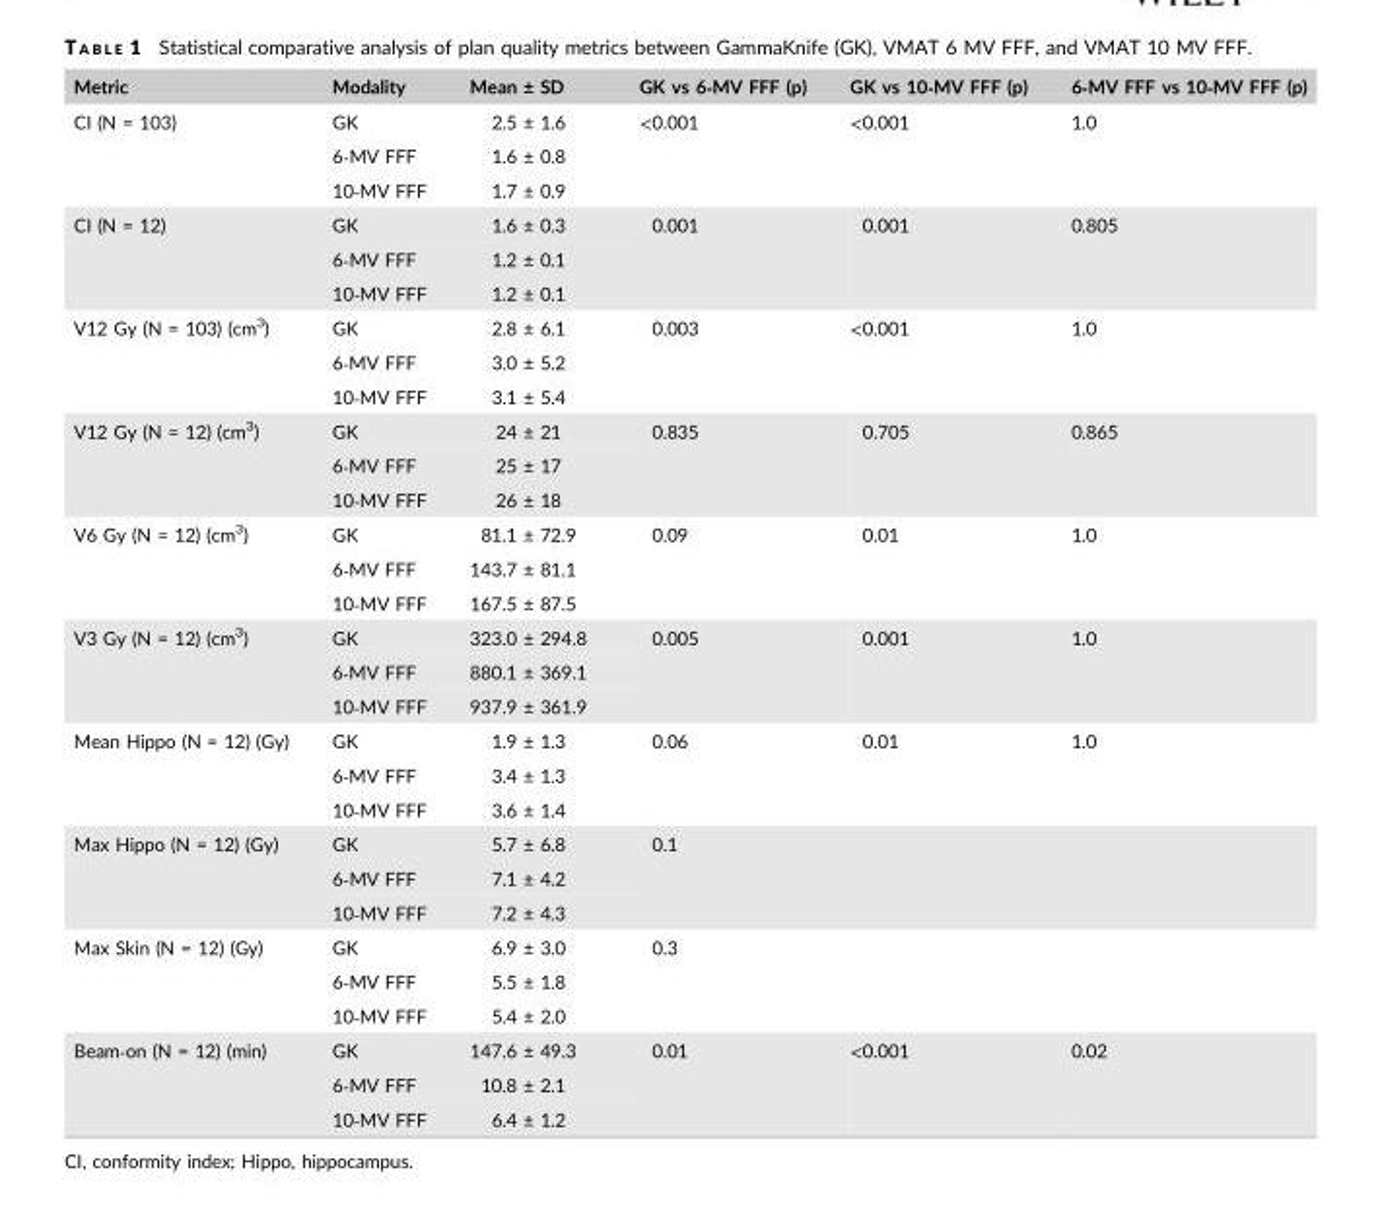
<table><thead><tr><td>Metric</td><td>Modality</td><td>Mean ± SD</td><td>GK vs 6‐MV FFF (p)</td><td>GK vs 10‐MV FFF (p)</td><td>6‐MV FFF vs 10‐MV FFF (p)</td></tr></thead><tbody><tr><td rowspan="3">CI (N = 103)</td><td>GK</td><td>2.5 ± 1.6</td><td rowspan="3">&lt;0.001</td><td rowspan="3">&lt;0.001</td><td rowspan="3">1.0</td></tr><tr><td>6‐MV FFF</td><td>1.6 ± 0.8</td></tr><tr><td>10‐MV FFF</td><td>1.7 ± 0.9</td></tr><tr><td rowspan="3">CI (N = 12)</td><td>GK</td><td>1.6 ± 0.3</td><td rowspan="3">0.001</td><td rowspan="3">0.001</td><td rowspan="3">0.805</td></tr><tr><td>6‐MV FFF</td><td>1.2 ± 0.1</td></tr><tr><td>10‐MV FFF</td><td>1.2 ± 0.1</td></tr><tr><td rowspan="3">V12 Gy (N = 103) (cm<sup>3</sup>)</td><td>GK</td><td>2.8 ± 6.1</td><td rowspan="3">0.003</td><td rowspan="3">&lt;0.001</td><td rowspan="3">1.0</td></tr><tr><td>6‐MV FFF</td><td>3.0 ± 5.2</td></tr><tr><td>10‐MV FFF</td><td>3.1 ± 5.4</td></tr><tr><td rowspan="3">V12 Gy (N = 12) (cm<sup>3</sup>)</td><td>GK</td><td>24 ± 21</td><td rowspan="3">0.835</td><td rowspan="3">0.705</td><td rowspan="3">0.865</td></tr><tr><td>6‐MV FFF</td><td>25 ± 17</td></tr><tr><td>10‐MV FFF</td><td>26 ± 18</td></tr><tr><td rowspan="3">V6 Gy (N = 12) (cm<sup>3</sup>)</td><td>GK</td><td>81.1 ± 72.9</td><td rowspan="3">0.09</td><td rowspan="3">0.01</td><td rowspan="3">1.0</td></tr><tr><td>6‐MV FFF</td><td>143.7 ± 81.1</td></tr><tr><td>10‐MV FFF</td><td>167.5 ± 87.5</td></tr><tr><td rowspan="3">V3 Gy (N = 12) (cm<sup>3</sup>)</td><td>GK</td><td>323.0 ± 294.8</td><td rowspan="3">0.005</td><td rowspan="3">0.001</td><td rowspan="3">1.0</td></tr><tr><td>6‐MV FFF</td><td>880.1 ± 369.1</td></tr><tr><td>10‐MV FFF</td><td>937.9 ± 361.9</td></tr><tr><td rowspan="3">Mean Hippo (N = 12) (Gy)</td><td>GK</td><td>1.9 ± 1.3</td><td rowspan="3">0.06</td><td rowspan="3">0.01</td><td rowspan="3">1.0</td></tr><tr><td>6‐MV FFF</td><td>3.4 ± 1.3</td></tr><tr><td>10‐MV FFF</td><td>3.6 ± 1.4</td></tr><tr><td rowspan="3">Max Hippo (N = 12) (Gy)</td><td>GK</td><td>5.7 ± 6.8</td><td rowspan="3" colspan="3">0.1</td></tr><tr><td>6‐MV FFF</td><td>7.1 ± 4.2</td></tr><tr><td>10‐MV FFF</td><td>7.2 ± 4.3</td></tr><tr><td rowspan="3">Max Skin (N = 12) (Gy)</td><td>GK</td><td>6.9 ± 3.0</td><td rowspan="3" colspan="3">0.3</td></tr><tr><td>6‐MV FFF</td><td>5.5 ± 1.8</td></tr><tr><td>10‐MV FFF</td><td>5.4 ± 2.0</td></tr><tr><td rowspan="3">Beam‐on (N = 12) (min)</td><td>GK</td><td>147.6 ± 49.3</td><td rowspan="3">0.01</td><td rowspan="3">&lt;0.001</td><td rowspan="3">0.02</td></tr><tr><td>6‐MV FFF</td><td>10.8 ± 2.1</td></tr><tr><td>10‐MV FFF</td><td>6.4 ± 1.2</td></tr></tbody></table>